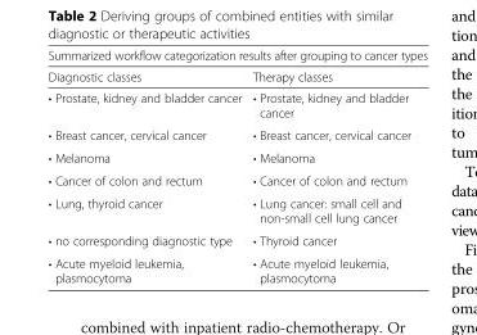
<table><thead><tr><td colspan="2">Summarized workflow categorization results after grouping to cancer types</td></tr><tr><td>Diagnostic classes</td><td>Therapy classes</td></tr></thead><tbody><tr><td>• Prostate, kidney and bladder cancer</td><td>• Prostate, kidney and bladder cancer</td></tr><tr><td>• Breast cancer, cervical cancer</td><td>• Breast cancer, cervical cancer</td></tr><tr><td>• Melanoma</td><td>• Melanoma</td></tr><tr><td>• Cancer of colon and rectum</td><td>• Cancer of colon and rectum</td></tr><tr><td>• Lung, thyroid cancer</td><td>• Lung cancer: small cell and non-small cell lung cancer</td></tr><tr><td>• no corresponding diagnostic type</td><td>• Thyroid cancer</td></tr><tr><td>• Acute myeloid leukemia, plasmocytoma</td><td>• Acute myeloid leukemia, plasmocytoma</td></tr></tbody></table>